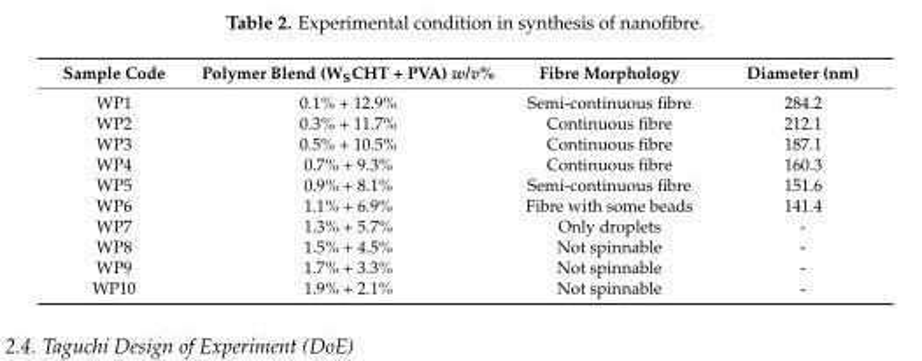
<table><thead><tr><td>Sample Code</td><td>Polymer Blend (WSCHT + PVA) w/v%</td><td>Fibre Morphology</td><td>Diameter (nm)</td></tr></thead><tbody><tr><td>WP1</td><td>0.1% + 12.9%</td><td>Semi-continuous fibre</td><td>284.2</td></tr><tr><td>WP2</td><td>0.3% + 11.7%</td><td>Continuous fibre</td><td>212.1</td></tr><tr><td>WP3</td><td>0.5% + 10.5%</td><td>Continuous fibre</td><td>187.1</td></tr><tr><td>WP4</td><td>0.7% + 9.3%</td><td>Continuous fibre</td><td>160.3</td></tr><tr><td>WP5</td><td>0.9% + 8.1%</td><td>Semi-continuous fibre</td><td>151.6</td></tr><tr><td>WP6</td><td>1.1% + 6.9%</td><td>Fibre with some beads</td><td>141.4</td></tr><tr><td>WP7</td><td>1.3% + 5.7%</td><td>Only droplets</td><td>-</td></tr><tr><td>WP8</td><td>1.5% + 4.5%</td><td>Not spinnable</td><td>-</td></tr><tr><td>WP9</td><td>1.7% + 3.3%</td><td>Not spinnable</td><td>-</td></tr><tr><td>WP10</td><td>1.9% + 2.1%</td><td>Not spinnable</td><td>-</td></tr></tbody></table>